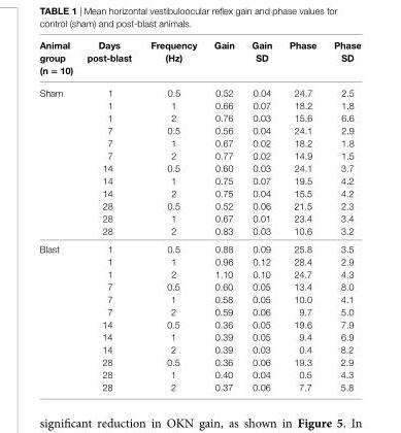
<table><thead><tr><td>animal group (n = 10)</td><td>Days post-blast</td><td>Frequency (hz)</td><td>gain</td><td>gain sD</td><td>Phase</td><td>Phase sD</td></tr></thead><tbody><tr><td rowspan="12">Sham</td><td>1</td><td>0.5</td><td>0.52</td><td>0.04</td><td>24.7</td><td>2.5</td></tr><tr><td>1</td><td>1</td><td>0.66</td><td>0.07</td><td>18.2</td><td>1.8</td></tr><tr><td>1</td><td>2</td><td>0.76</td><td>0.03</td><td>15.6</td><td>6.6</td></tr><tr><td>7</td><td>0.5</td><td>0.56</td><td>0.04</td><td>24.1</td><td>2.9</td></tr><tr><td>7</td><td>1</td><td>0.67</td><td>0.02</td><td>18.2</td><td>1.8</td></tr><tr><td>7</td><td>2</td><td>0.77</td><td>0.02</td><td>14.9</td><td>1.5</td></tr><tr><td>14</td><td>0.5</td><td>0.60</td><td>0.03</td><td>24.1</td><td>3.7</td></tr><tr><td>14</td><td>1</td><td>0.75</td><td>0.07</td><td>19.5</td><td>4.2</td></tr><tr><td>14</td><td>2</td><td>0.75</td><td>0.04</td><td>15.5</td><td>4.2</td></tr><tr><td>28</td><td>0.5</td><td>0.52</td><td>0.06</td><td>21.5</td><td>2.3</td></tr><tr><td>28</td><td>1</td><td>0.67</td><td>0.01</td><td>23.4</td><td>3.4</td></tr><tr><td>28</td><td>2</td><td>0.83</td><td>0.03</td><td>10.6</td><td>3.2</td></tr><tr><td rowspan="12">Blast</td><td>1</td><td>0.5</td><td>0.88</td><td>0.09</td><td>25.8</td><td>3.5</td></tr><tr><td>1</td><td>1</td><td>0.96</td><td>0.12</td><td>28.4</td><td>2.9</td></tr><tr><td>1</td><td>2</td><td>1.10</td><td>0.10</td><td>24.7</td><td>4.3</td></tr><tr><td>7</td><td>0.5</td><td>0.60</td><td>0.05</td><td>13.4</td><td>8.0</td></tr><tr><td>7</td><td>1</td><td>0.58</td><td>0.05</td><td>10.0</td><td>4.1</td></tr><tr><td>7</td><td>2</td><td>0.59</td><td>0.06</td><td>9.7</td><td>5.0</td></tr><tr><td>14</td><td>0.5</td><td>0.36</td><td>0.05</td><td>19.6</td><td>7.9</td></tr><tr><td>14</td><td>1</td><td>0.39</td><td>0.05</td><td>9.4</td><td>6.9</td></tr><tr><td>14</td><td>2</td><td>0.39</td><td>0.03</td><td>0.4</td><td>8.2</td></tr><tr><td>28</td><td>0.5</td><td>0.36</td><td>0.06</td><td>19.3</td><td>2.9</td></tr><tr><td>28</td><td>1</td><td>0.40</td><td>0.04</td><td>0.5</td><td>4.3</td></tr><tr><td>28</td><td>2</td><td>0.37</td><td>0.06</td><td>7.7</td><td>5.8</td></tr></tbody></table>